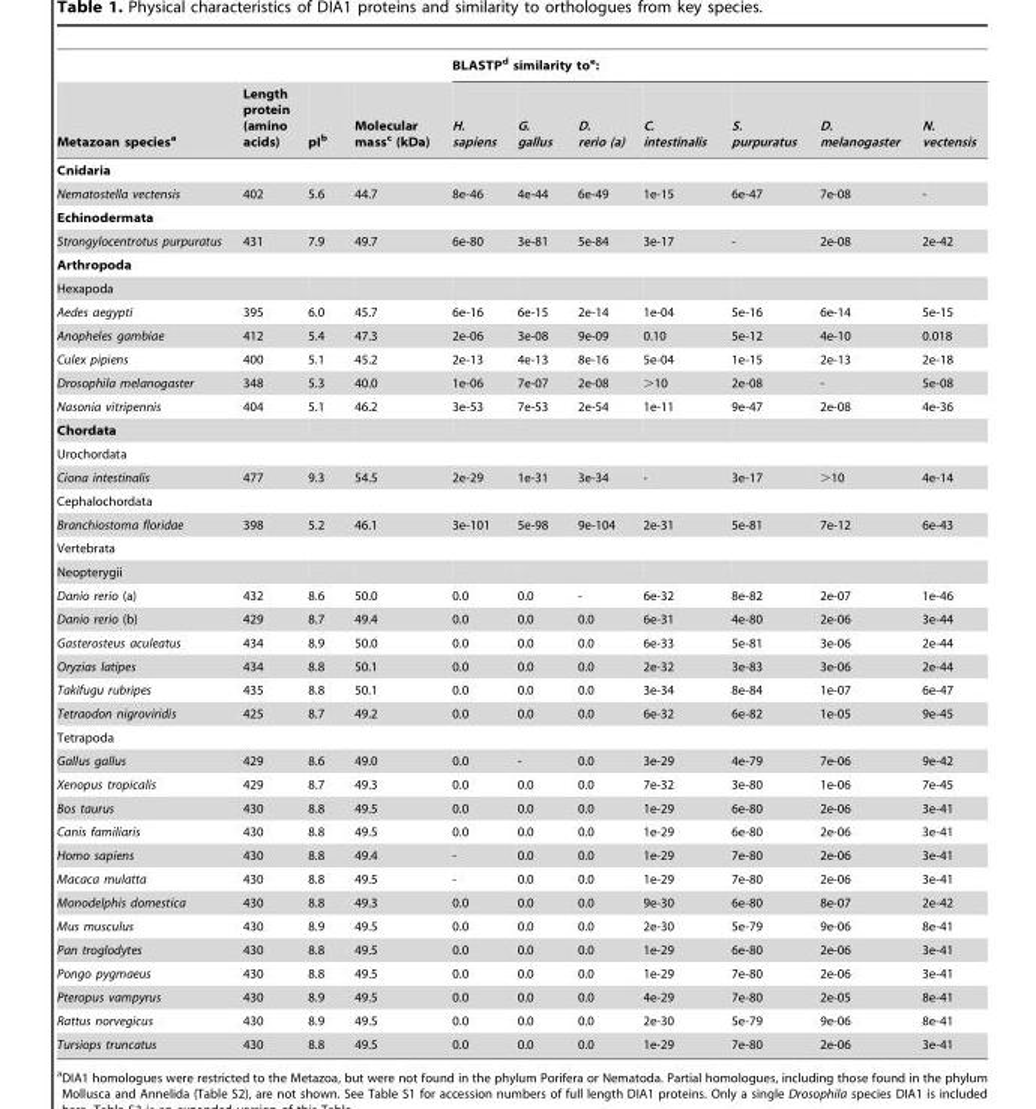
<table><thead><tr><td rowspan="2">Metazoan species<sup>a</sup></td><td rowspan="2">Length protein (amino acids)</td><td rowspan="2">pI<sup>b</sup></td><td rowspan="2">Molecular mass<sup>c</sup> (kDa)</td><td colspan="7">BLASTP<sup>d</sup> similarity to<sup>e</sup>:</td></tr><tr><td>H. sapiens</td><td>G. gallus</td><td>D. rerio (a)</td><td>C. intestinalis</td><td>S. purpuratus</td><td>D. melanogaster</td><td>N. vectensis</td></tr></thead><tbody><tr><td colspan="11">Cnidaria</td></tr><tr><td>Nematostella vectensis</td><td>402</td><td>5.6</td><td>44.7</td><td>8e-46</td><td>4e-44</td><td>6e-49</td><td>1e-15</td><td>6e-47</td><td>7e-08</td><td>-</td></tr><tr><td colspan="11">Echinodermata</td></tr><tr><td>Strongylocentrotus purpuratus</td><td>431</td><td>7.9</td><td>49.7</td><td>6e-80</td><td>3e-81</td><td>5e-84</td><td>3e-17</td><td>-</td><td>2e-08</td><td>2e-42</td></tr><tr><td colspan="11">Arthropoda</td></tr><tr><td colspan="11">Hexapoda</td></tr><tr><td>Aedes aegypti</td><td>395</td><td>6.0</td><td>45.7</td><td>6e-16</td><td>6e-15</td><td>2e-14</td><td>1e-04</td><td>5e-16</td><td>6e-14</td><td>5e-15</td></tr><tr><td>Anopheles gambiae</td><td>412</td><td>5.4</td><td>47.3</td><td>2e-06</td><td>3e-08</td><td>9e-09</td><td>0.10</td><td>5e-12</td><td>4e-10</td><td>0.018</td></tr><tr><td>Culex pipiens</td><td>400</td><td>5.1</td><td>45.2</td><td>2e-13</td><td>4e-13</td><td>8e-16</td><td>5e-04</td><td>1e-15</td><td>2e-13</td><td>2e-18</td></tr><tr><td>Drosophila melanogaster</td><td>348</td><td>5.3</td><td>40.0</td><td>1e-06</td><td>7e-07</td><td>2e-08</td><td>&gt;10</td><td>2e-08</td><td>-</td><td>5e-08</td></tr><tr><td>Nasonia vitripennis</td><td>404</td><td>5.1</td><td>46.2</td><td>3e-53</td><td>7e-53</td><td>2e-54</td><td>1e-11</td><td>9e-47</td><td>2e-08</td><td>4e-36</td></tr><tr><td colspan="11">Chordata</td></tr><tr><td colspan="11">Urochordata</td></tr><tr><td>Ciona intestinalis</td><td>477</td><td>9.3</td><td>54.5</td><td>2e-29</td><td>1e-31</td><td>3e-34</td><td>-</td><td>3e-17</td><td>&gt;10</td><td>4e-14</td></tr><tr><td colspan="11">Cephalochordata</td></tr><tr><td>Branchiostoma floridae</td><td>398</td><td>5.2</td><td>46.1</td><td>3e-101</td><td>5e-98</td><td>9e-104</td><td>2e-31</td><td>5e-81</td><td>7e-12</td><td>6e-43</td></tr><tr><td colspan="11">Vertebrata</td></tr><tr><td colspan="11">Neopterygii</td></tr><tr><td>Danio rerio (a)</td><td>432</td><td>8.6</td><td>50.0</td><td>0.0</td><td>0.0</td><td>-</td><td>6e-32</td><td>8e-82</td><td>2e-07</td><td>1e-46</td></tr><tr><td>Danio rerio (b)</td><td>429</td><td>8.7</td><td>49.4</td><td>0.0</td><td>0.0</td><td>0.0</td><td>6e-31</td><td>4e-80</td><td>2e-06</td><td>3e-44</td></tr><tr><td>Gasterosteus aculeatus</td><td>434</td><td>8.9</td><td>50.0</td><td>0.0</td><td>0.0</td><td>0.0</td><td>6e-33</td><td>5e-81</td><td>3e-06</td><td>2e-44</td></tr><tr><td>Oryzias latipes</td><td>434</td><td>8.8</td><td>50.1</td><td>0.0</td><td>0.0</td><td>0.0</td><td>2e-32</td><td>3e-83</td><td>3e-06</td><td>2e-44</td></tr><tr><td>Takifugu rubripes</td><td>435</td><td>8.8</td><td>50.1</td><td>0.0</td><td>0.0</td><td>0.0</td><td>3e-34</td><td>8e-84</td><td>1e-07</td><td>6e-47</td></tr><tr><td>Tetraodon nigroviridis</td><td>425</td><td>8.7</td><td>49.2</td><td>0.0</td><td>0.0</td><td>0.0</td><td>6e-32</td><td>6e-82</td><td>1e-05</td><td>9e-45</td></tr><tr><td colspan="11">Tetrapoda</td></tr><tr><td>Gallus gallus</td><td>429</td><td>8.6</td><td>49.0</td><td>0.0</td><td>-</td><td>0.0</td><td>3e-29</td><td>4e-79</td><td>7e-06</td><td>9e-42</td></tr><tr><td>Xenopus tropicalis</td><td>429</td><td>8.7</td><td>49.3</td><td>0.0</td><td>0.0</td><td>0.0</td><td>7e-32</td><td>3e-80</td><td>1e-06</td><td>7e-45</td></tr><tr><td>Bos taurus</td><td>430</td><td>8.8</td><td>49.5</td><td>0.0</td><td>0.0</td><td>0.0</td><td>1e-29</td><td>6e-80</td><td>2e-06</td><td>3e-41</td></tr><tr><td>Canis familiaris</td><td>430</td><td>8.8</td><td>49.5</td><td>0.0</td><td>0.0</td><td>0.0</td><td>1e-29</td><td>6e-80</td><td>2e-06</td><td>3e-41</td></tr><tr><td>Homo sapiens</td><td>430</td><td>8.8</td><td>49.4</td><td>-</td><td>0.0</td><td>0.0</td><td>1e-29</td><td>7e-80</td><td>2e-06</td><td>3e-41</td></tr><tr><td>Macaca mulatta</td><td>430</td><td>8.8</td><td>49.5</td><td>-</td><td>0.0</td><td>0.0</td><td>1e-29</td><td>7e-80</td><td>2e-06</td><td>3e-41</td></tr><tr><td>Monodelphis domestica</td><td>430</td><td>8.8</td><td>49.3</td><td>0.0</td><td>0.0</td><td>0.0</td><td>9e-30</td><td>6e-80</td><td>8e-07</td><td>2e-42</td></tr><tr><td>Mus musculus</td><td>430</td><td>8.9</td><td>49.5</td><td>0.0</td><td>0.0</td><td>0.0</td><td>2e-30</td><td>5e-79</td><td>9e-06</td><td>8e-41</td></tr><tr><td>Pan troglodytes</td><td>430</td><td>8.8</td><td>49.5</td><td>0.0</td><td>0.0</td><td>0.0</td><td>1e-29</td><td>6e-80</td><td>2e-06</td><td>3e-41</td></tr><tr><td>Pongo pygmaeus</td><td>430</td><td>8.8</td><td>49.5</td><td>0.0</td><td>0.0</td><td>0.0</td><td>1e-29</td><td>7e-80</td><td>2e-06</td><td>3e-41</td></tr><tr><td>Pteropus vampyrus</td><td>430</td><td>8.9</td><td>49.5</td><td>0.0</td><td>0.0</td><td>0.0</td><td>4e-29</td><td>7e-80</td><td>2e-05</td><td>8e-41</td></tr><tr><td>Rattus norvegicus</td><td>430</td><td>8.9</td><td>49.5</td><td>0.0</td><td>0.0</td><td>0.0</td><td>2e-30</td><td>5e-79</td><td>9e-06</td><td>8e-41</td></tr><tr><td>Tursiops truncatus</td><td>430</td><td>8.8</td><td>49.5</td><td>0.0</td><td>0.0</td><td>0.0</td><td>1e-29</td><td>7e-80</td><td>2e-06</td><td>3e-41</td></tr></tbody></table>